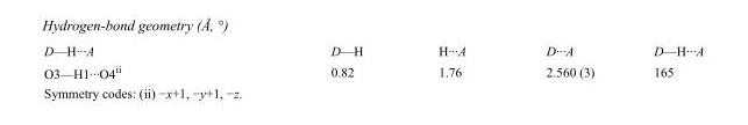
<table><tbody><tr><td>D—H···A</td><td>D—H</td><td>H···A</td><td>D···A</td><td>D—H···A</td></tr><tr><td>O3—H1···O4<sup>ii</sup></td><td>0.82</td><td>1.76</td><td>2.560 (3)</td><td>165</td></tr></tbody></table>